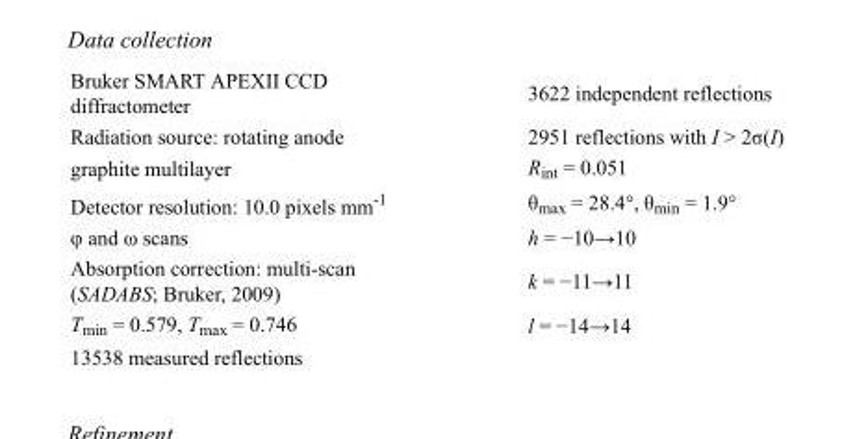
<table><tbody><tr><td>Bruker SMART APEXII CCD diffractometer</td><td>3622 independent reflections</td></tr><tr><td>Radiation source: rotating anode</td><td>2951 reflections with I &gt; 2σ(I)</td></tr><tr><td>graphite multilayer</td><td>R<sub>int</sub> = 0.051</td></tr><tr><td>Detector resolution: 10.0 pixels mm<sup>-1</sup></td><td>θ<sub>max</sub> = 28.4°, θ<sub>min</sub> = 1.9°</td></tr><tr><td>φ and ω scans</td><td>h = −10→10</td></tr><tr><td>Absorption correction: multi-scan (SADABS; Bruker, 2009)</td><td>k = −11→11</td></tr><tr><td>T<sub>min</sub> = 0.579, T<sub>max</sub> = 0.746</td><td>l = −14→14</td></tr><tr><td>13538 measured reflections</td><td></td></tr></tbody></table>